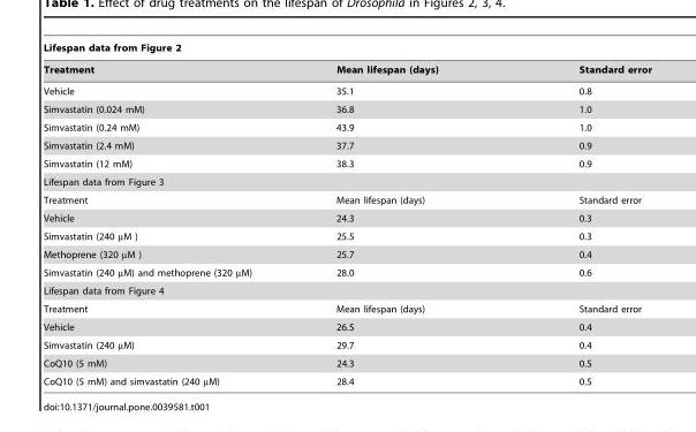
<table><thead><tr><td colspan="3">Lifespan data from Figure 2</td></tr><tr><td>Treatment</td><td>Mean lifespan (days)</td><td>Standard error</td></tr></thead><tbody><tr><td>Vehicle</td><td>35.1</td><td>0.8</td></tr><tr><td>Simvastatin (0.024 mM)</td><td>36.8</td><td>1.0</td></tr><tr><td>Simvastatin (0.24 mM)</td><td>43.9</td><td>1.0</td></tr><tr><td>Simvastatin (2.4 mM)</td><td>37.7</td><td>0.9</td></tr><tr><td>Simvastatin (12 mM)</td><td>38.3</td><td>0.9</td></tr><tr><td colspan="3">Lifespan data from Figure 3</td></tr><tr><td>Treatment</td><td>Mean lifespan (days)</td><td>Standard error</td></tr><tr><td>Vehicle</td><td>24.3</td><td>0.3</td></tr><tr><td>Simvastatin (240 µM )</td><td>25.5</td><td>0.3</td></tr><tr><td>Methoprene (320 µM )</td><td>25.7</td><td>0.4</td></tr><tr><td>Simvastatin (240 µM) and methoprene (320 µM)</td><td>28.0</td><td>0.6</td></tr><tr><td colspan="3">Lifespan data from Figure 4</td></tr><tr><td>Treatment</td><td>Mean lifespan (days)</td><td>Standard error</td></tr><tr><td>Vehicle</td><td>26.5</td><td>0.4</td></tr><tr><td>Simvastatin (240 µM)</td><td>29.7</td><td>0.4</td></tr><tr><td>CoQ10 (5 mM)</td><td>24.3</td><td>0.5</td></tr><tr><td>CoQ10 (5 mM) and simvastatin (240 µM)</td><td>28.4</td><td>0.5</td></tr></tbody></table>